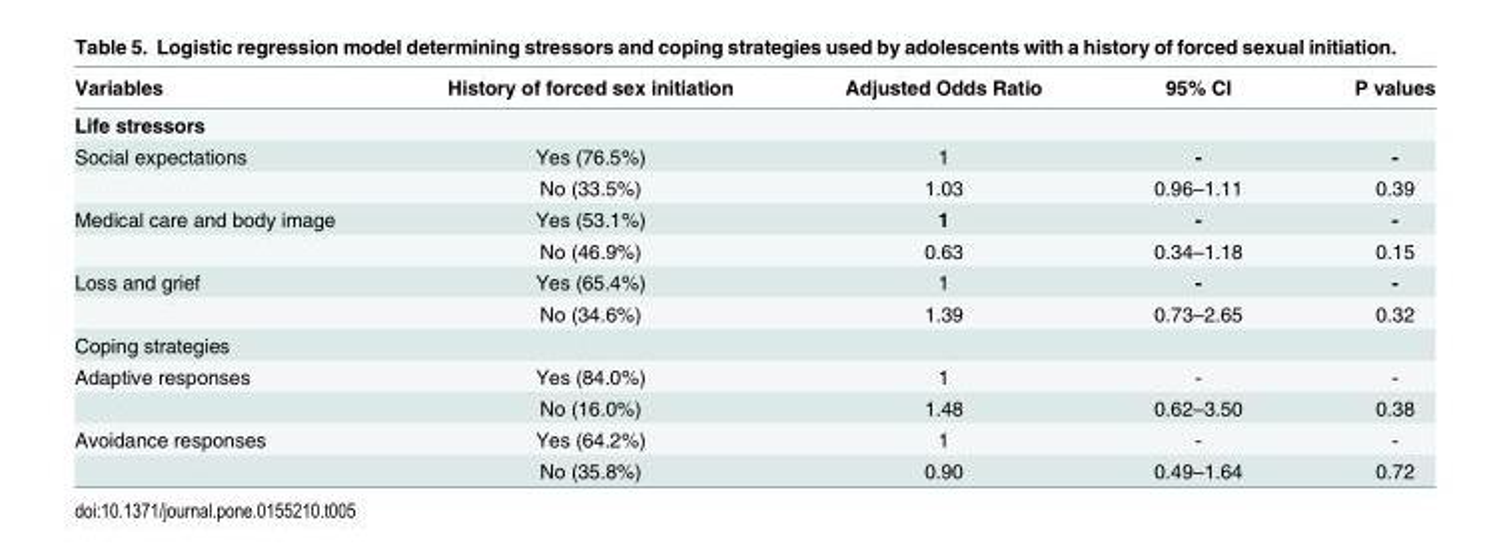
<table><thead><tr><td>Variables</td><td>History of forced sex initiation</td><td>Adjusted Odds Ratio</td><td>95% CI</td><td>P values</td></tr></thead><tbody><tr><td colspan="5">Life stressors</td></tr><tr><td rowspan="2">Social expectations</td><td>Yes (76.5%)</td><td>1</td><td>-</td><td>-</td></tr><tr><td>No (33.5%)</td><td>1.03</td><td>0.96–1.11</td><td>0.39</td></tr><tr><td rowspan="2">Medical care and body image</td><td>Yes (53.1%)</td><td>1</td><td>-</td><td>-</td></tr><tr><td>No (46.9%)</td><td>0.63</td><td>0.34–1.18</td><td>0.15</td></tr><tr><td rowspan="2">Loss and grief</td><td>Yes (65.4%)</td><td>1</td><td>-</td><td>-</td></tr><tr><td>No (34.6%)</td><td>1.39</td><td>0.73–2.65</td><td>0.32</td></tr><tr><td colspan="5">Coping strategies</td></tr><tr><td rowspan="2">Adaptive responses</td><td>Yes (84.0%)</td><td>1</td><td>-</td><td>-</td></tr><tr><td>No (16.0%)</td><td>1.48</td><td>0.62–3.50</td><td>0.38</td></tr><tr><td rowspan="2">Avoidance responses</td><td>Yes (64.2%)</td><td>1</td><td>-</td><td>-</td></tr><tr><td>No (35.8%)</td><td>0.90</td><td>0.49–1.64</td><td>0.72</td></tr></tbody></table>